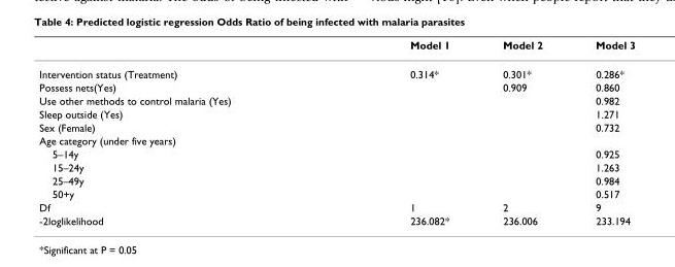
<table><thead><tr><td></td><td>Model 1</td><td>Model 2</td><td>Model 3</td></tr></thead><tbody><tr><td>Intervention status (Treatment)</td><td>0.314*</td><td>0.301*</td><td>0.286*</td></tr><tr><td>Possess nets(Yes)</td><td></td><td>0.909</td><td>0.860</td></tr><tr><td>Use other methods to control malaria (Yes)</td><td></td><td></td><td>0.982</td></tr><tr><td>Sleep outside (Yes)</td><td></td><td></td><td>1.271</td></tr><tr><td>Sex (Female)</td><td></td><td></td><td>0.732</td></tr><tr><td colspan="4">Age category (under five years)</td></tr><tr><td>5–14y</td><td></td><td></td><td>0.925</td></tr><tr><td>15–24y</td><td></td><td></td><td>1.263</td></tr><tr><td>25–49y</td><td></td><td></td><td>0.984</td></tr><tr><td>50+y</td><td></td><td></td><td>0.517</td></tr><tr><td>Df</td><td>1</td><td>2</td><td>9</td></tr><tr><td>-2loglikelihood</td><td>236.082*</td><td>236.006</td><td>233.194</td></tr></tbody></table>